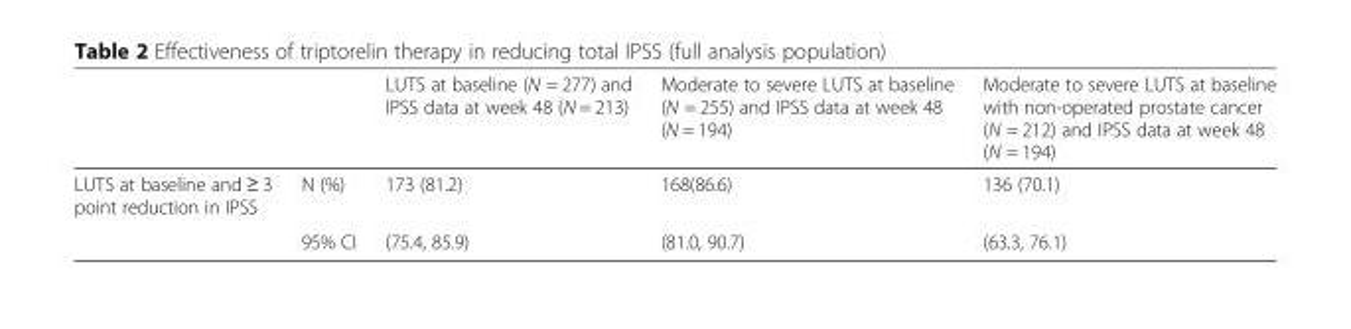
<table><thead><tr><td></td><td></td><td>LUTS at baseline (N = 277) and IPSS data at week 48 (N = 213)</td><td>Moderate to severe LUTS at baseline (N = 255) and IPSS data at week 48 (N = 194)</td><td>Moderate to severe LUTS at baseline with non-operated prostate cancer (N = 212) and IPSS data at week 48 (N = 194)</td></tr></thead><tbody><tr><td rowspan="2">LUTS at baseline and ≥ 3 point reduction in IPSS</td><td>N (%)</td><td>173 (81.2)</td><td>168(86.6)</td><td>136 (70.1)</td></tr><tr><td>95% CI</td><td>(75.4, 85.9)</td><td>(81.0, 90.7)</td><td>(63.3, 76.1)</td></tr></tbody></table>